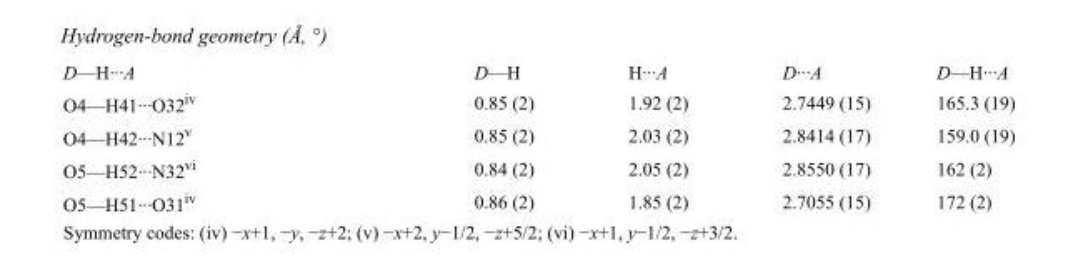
<table><tbody><tr><td>D—H···A</td><td>D—H</td><td>H···A</td><td>D···A</td><td>D—H···A</td></tr><tr><td>O4—H41···O32<sup>iv</sup></td><td>0.85 (2)</td><td>1.92 (2)</td><td>2.7449 (15)</td><td>165.3 (19)</td></tr><tr><td>O4—H42···N12<sup>v</sup></td><td>0.85 (2)</td><td>2.03 (2)</td><td>2.8414 (17)</td><td>159.0 (19)</td></tr><tr><td>O5—H52···N32<sup>vi</sup></td><td>0.84 (2)</td><td>2.05 (2)</td><td>2.8550 (17)</td><td>162 (2)</td></tr><tr><td>O5—H51···O31<sup>iv</sup></td><td>0.86 (2)</td><td>1.85 (2)</td><td>2.7055 (15)</td><td>172 (2)</td></tr></tbody></table>